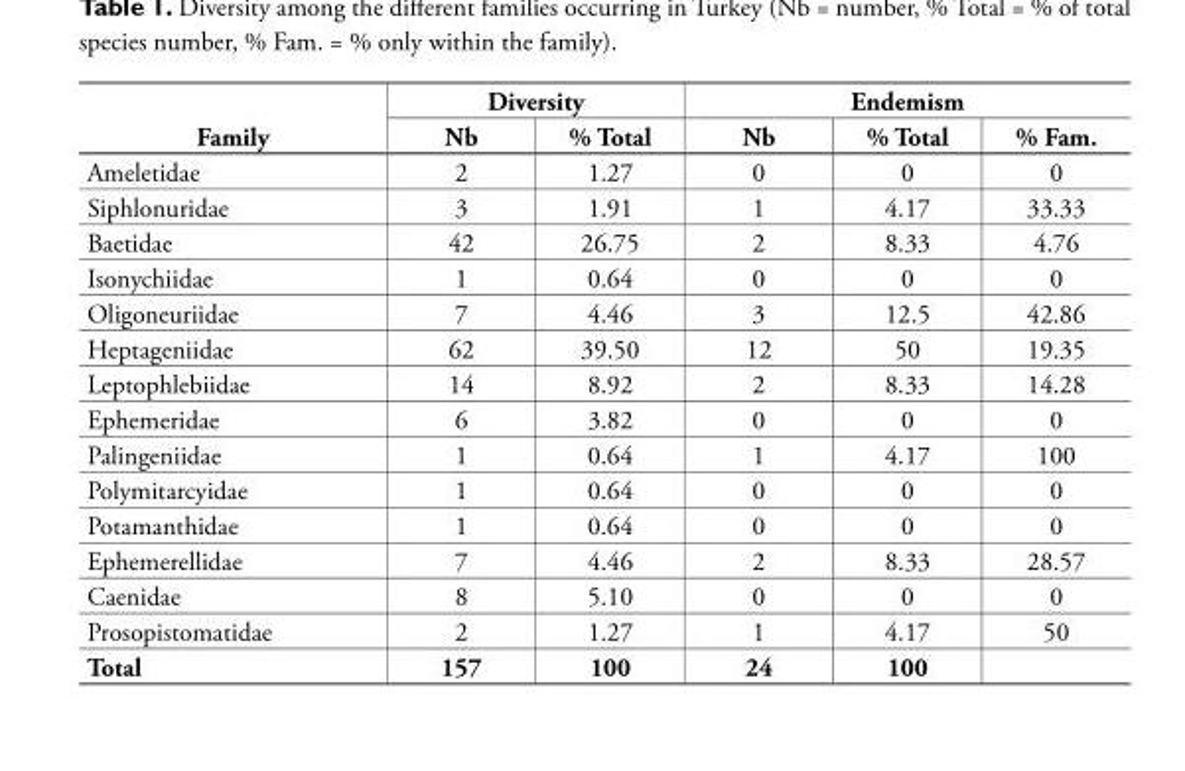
<table><thead><tr><td rowspan="2">Family</td><td colspan="2">Diversity</td><td colspan="3">Endemism</td></tr><tr><td>Nb</td><td>% Total</td><td>Nb</td><td>% Total</td><td>% Fam.</td></tr></thead><tbody><tr><td>Ameletidae</td><td>2</td><td>1.27</td><td>0</td><td>0</td><td>0</td></tr><tr><td>Siphlonuridae</td><td>3</td><td>1.91</td><td>1</td><td>4.17</td><td>33.33</td></tr><tr><td>Baetidae</td><td>42</td><td>26.75</td><td>2</td><td>8.33</td><td>4.76</td></tr><tr><td>Isonychiidae</td><td>1</td><td>0.64</td><td>0</td><td>0</td><td>0</td></tr><tr><td>Oligoneuriidae</td><td>7</td><td>4.46</td><td>3</td><td>12.5</td><td>42.86</td></tr><tr><td>Heptageniidae</td><td>62</td><td>39.50</td><td>12</td><td>50</td><td>19.35</td></tr><tr><td>Leptophlebiidae</td><td>14</td><td>8.92</td><td>2</td><td>8.33</td><td>14.28</td></tr><tr><td>Ephemeridae</td><td>6</td><td>3.82</td><td>0</td><td>0</td><td>0</td></tr><tr><td>Palingeniidae</td><td>1</td><td>0.64</td><td>1</td><td>4.17</td><td>100</td></tr><tr><td>Polymitarcyidae</td><td>1</td><td>0.64</td><td>0</td><td>0</td><td>0</td></tr><tr><td>Potamanthidae</td><td>1</td><td>0.64</td><td>0</td><td>0</td><td>0</td></tr><tr><td>Ephemerellidae</td><td>7</td><td>4.46</td><td>2</td><td>8.33</td><td>28.57</td></tr><tr><td>Caenidae</td><td>8</td><td>5.10</td><td>0</td><td>0</td><td>0</td></tr><tr><td>Prosopistomatidae</td><td>2</td><td>1.27</td><td>1</td><td>4.17</td><td>50</td></tr><tr><td>Total</td><td>157</td><td>100</td><td>24</td><td>100</td><td></td></tr></tbody></table>